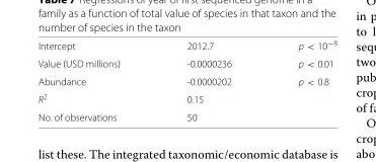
<table><tbody><tr><td>Intercept</td><td>2012.7</td><td>p &lt; 10<sup>−8</sup></td></tr><tr><td>Value (USD millions)</td><td>-0.0000236</td><td>p &lt; 0.01</td></tr><tr><td>Abundance</td><td>-0.0000202</td><td>p &lt; 0.8</td></tr><tr><td>R<sup>2</sup></td><td>0.15</td><td></td></tr><tr><td>No. of observations</td><td>50</td><td></td></tr></tbody></table>